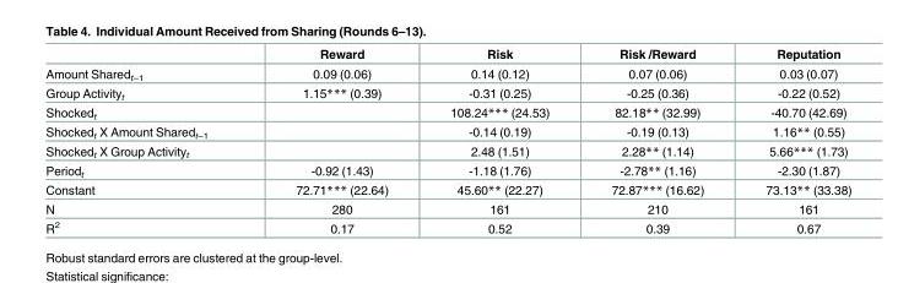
<table><thead><tr><td></td><td>Reward</td><td>Risk</td><td>Risk /Reward</td><td>Reputation</td></tr></thead><tbody><tr><td>Amount Shared<sub>t–1</sub></td><td>0.09 (0.06)</td><td>0.14 (0.12)</td><td>0.07 (0.06)</td><td>0.03 (0.07)</td></tr><tr><td>Group Activity<sub>t</sub></td><td>1.15*** (0.39)</td><td>-0.31 (0.25)</td><td>-0.25 (0.36)</td><td>-0.22 (0.52)</td></tr><tr><td>Shocked<sub>t</sub></td><td></td><td>108.24*** (24.53)</td><td>82.18** (32.99)</td><td>-40.70 (42.69)</td></tr><tr><td>Shocked<sub>t</sub> X Amount Shared<sub>t–1</sub></td><td></td><td>-0.14 (0.19)</td><td>-0.19 (0.13)</td><td>1.16** (0.55)</td></tr><tr><td>Shocked<sub>t</sub> X Group Activity<sub>t</sub></td><td></td><td>2.48 (1.51)</td><td>2.28** (1.14)</td><td>5.66*** (1.73)</td></tr><tr><td>Period<sub>t</sub></td><td>-0.92 (1.43)</td><td>-1.18 (1.76)</td><td>-2.78** (1.16)</td><td>-2.30 (1.87)</td></tr><tr><td>Constant</td><td>72.71*** (22.64)</td><td>45.60** (22.27)</td><td>72.87*** (16.62)</td><td>73.13** (33.38)</td></tr><tr><td>N</td><td>280</td><td>161</td><td>210</td><td>161</td></tr><tr><td>R<sup>2</sup></td><td>0.17</td><td>0.52</td><td>0.39</td><td>0.67</td></tr></tbody></table>